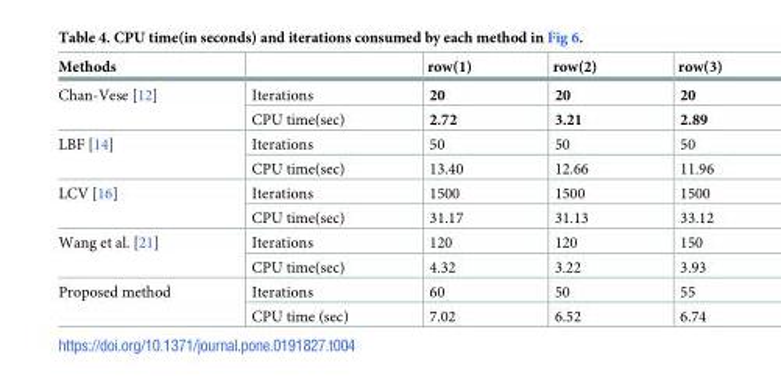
<table><thead><tr><td>Methods</td><td></td><td>row(1)</td><td>row(2)</td><td>row(3)</td></tr></thead><tbody><tr><td rowspan="2">Chan-Vese [12]</td><td>Iterations</td><td>20</td><td>20</td><td>20</td></tr><tr><td>CPU time(sec)</td><td>2.72</td><td>3.21</td><td>2.89</td></tr><tr><td rowspan="2">LBF [14]</td><td>Iterations</td><td>50</td><td>50</td><td>50</td></tr><tr><td>CPU time(sec)</td><td>13.40</td><td>12.66</td><td>11.96</td></tr><tr><td rowspan="2">LCV [16]</td><td>Iterations</td><td>1500</td><td>1500</td><td>1500</td></tr><tr><td>CPU time(sec)</td><td>31.17</td><td>31.13</td><td>33.12</td></tr><tr><td rowspan="2">Wang et al. [21]</td><td>Iterations</td><td>120</td><td>120</td><td>150</td></tr><tr><td>CPU time(sec)</td><td>4.32</td><td>3.22</td><td>3.93</td></tr><tr><td rowspan="2">Proposed method</td><td>Iterations</td><td>60</td><td>50</td><td>55</td></tr><tr><td>CPU time (sec)</td><td>7.02</td><td>6.52</td><td>6.74</td></tr></tbody></table>